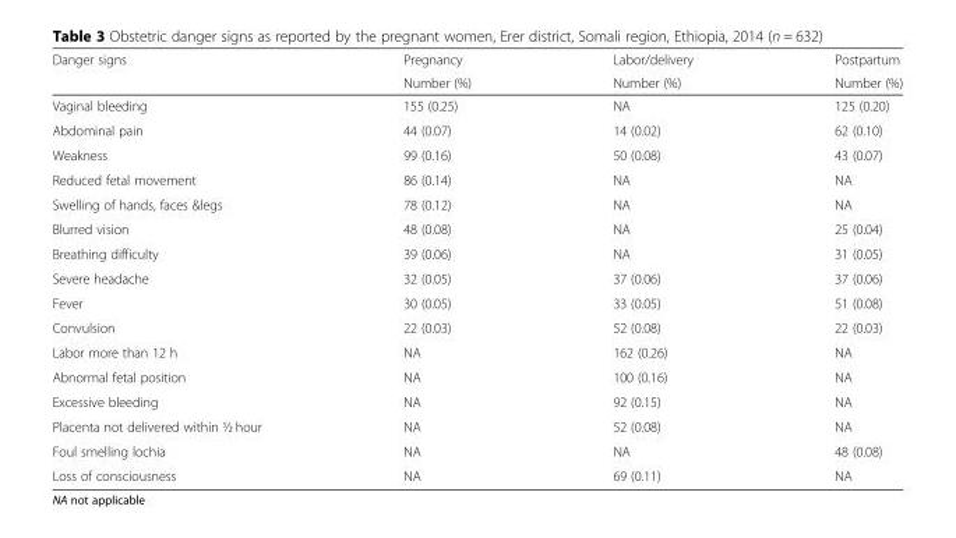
<table><thead><tr><td rowspan="2">Danger signs</td><td rowspan="2">Pregnancy Number (%)</td><td rowspan="2">Labor/delivery Number (%)</td><td rowspan="2">Postpartum Number (%)</td></tr><tr></tr></thead><tbody><tr><td>Vaginal bleeding</td><td>155 (0.25)</td><td>NA</td><td>125 (0.20)</td></tr><tr><td>Abdominal pain</td><td>44 (0.07)</td><td>14 (0.02)</td><td>62 (0.10)</td></tr><tr><td>Weakness</td><td>99 (0.16)</td><td>50 (0.08)</td><td>43 (0.07)</td></tr><tr><td>Reduced fetal movement</td><td>86 (0.14)</td><td>NA</td><td>NA</td></tr><tr><td>Swelling of hands, faces &amp;legs</td><td>78 (0.12)</td><td>NA</td><td>NA</td></tr><tr><td>Blurred vision</td><td>48 (0.08)</td><td>NA</td><td>25 (0.04)</td></tr><tr><td>Breathing difficulty</td><td>39 (0.06)</td><td>NA</td><td>31 (0.05)</td></tr><tr><td>Severe headache</td><td>32 (0.05)</td><td>37 (0.06)</td><td>37 (0.06)</td></tr><tr><td>Fever</td><td>30 (0.05)</td><td>33 (0.05)</td><td>51 (0.08)</td></tr><tr><td>Convulsion</td><td>22 (0.03)</td><td>52 (0.08)</td><td>22 (0.03)</td></tr><tr><td>Labor more than 12 h</td><td>NA</td><td>162 (0.26)</td><td>NA</td></tr><tr><td>Abnormal fetal position</td><td>NA</td><td>100 (0.16)</td><td>NA</td></tr><tr><td>Excessive bleeding</td><td>NA</td><td>92 (0.15)</td><td>NA</td></tr><tr><td>Placenta not delivered within ½ hour</td><td>NA</td><td>52 (0.08)</td><td>NA</td></tr><tr><td>Foul smelling lochia</td><td>NA</td><td>NA</td><td>48 (0.08)</td></tr><tr><td>Loss of consciousness</td><td>NA</td><td>69 (0.11)</td><td>NA</td></tr></tbody></table>